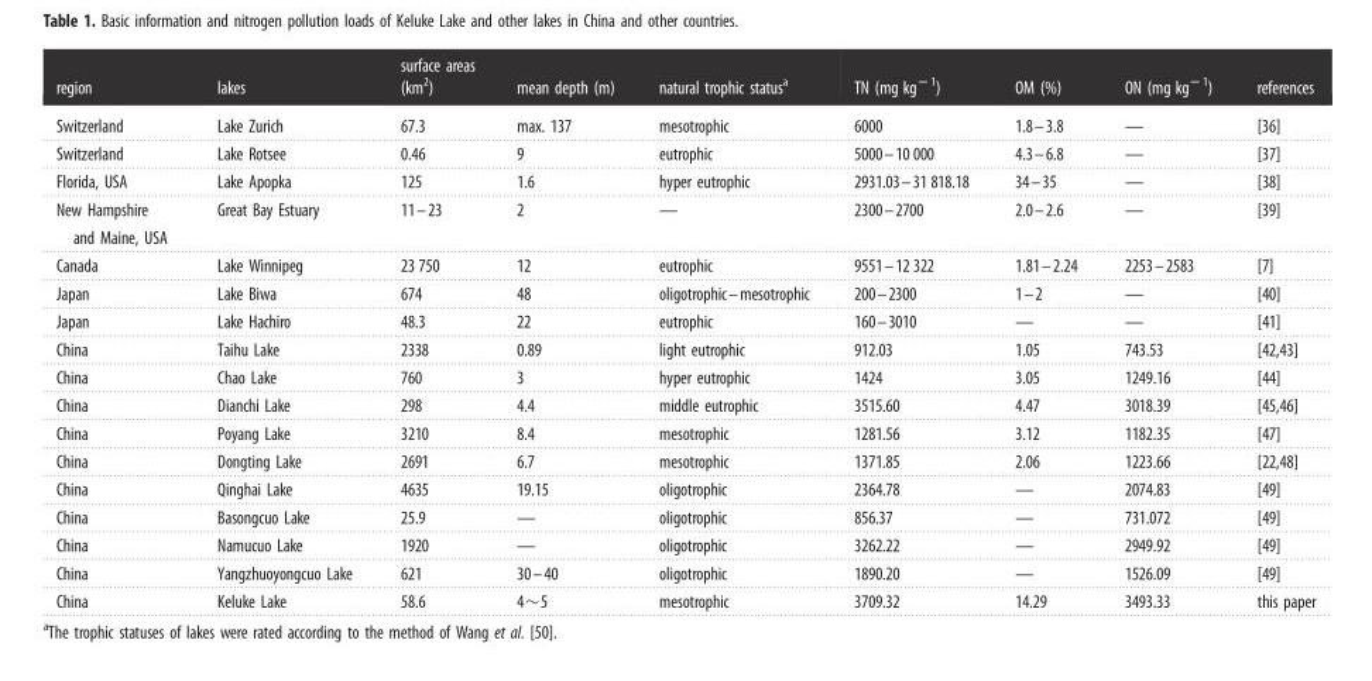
<table><thead><tr><td>region</td><td>lakes</td><td>surface areas (km<sup>2</sup>)</td><td>mean depth (m)</td><td>natural trophic status<sup>a</sup></td><td>TN (mg kg<sup>−1</sup>)</td><td>OM (%)</td><td>ON (mg kg<sup>−1</sup>)</td><td>references</td></tr></thead><tbody><tr><td>Switzerland</td><td>Lake Zurich</td><td>67.3</td><td>max. 137</td><td>mesotrophic</td><td>6000</td><td>1.8–3.8</td><td>—</td><td>[36]</td></tr><tr><td>Switzerland</td><td>Lake Rotsee</td><td>0.46</td><td>9</td><td>eutrophic</td><td>5000–10 000</td><td>4.3–6.8</td><td>—</td><td>[37]</td></tr><tr><td>Florida, USA</td><td>Lake Apopka</td><td>125</td><td>1.6</td><td>hyper eutrophic</td><td>2931.03–31 818.18</td><td>34–35</td><td>—</td><td>[38]</td></tr><tr><td>New Hampshire and Maine, USA</td><td>Great Bay Estuary</td><td>11–23</td><td>2</td><td>—</td><td>2300–2700</td><td>2.0–2.6</td><td>—</td><td>[39]</td></tr><tr><td>Canada</td><td>Lake Winnipeg</td><td>23 750</td><td>12</td><td>eutrophic</td><td>9551–12 322</td><td>1.81–2.24</td><td>2253–2583</td><td>[7]</td></tr><tr><td>Japan</td><td>Lake Biwa</td><td>674</td><td>48</td><td>oligotrophic–mesotrophic</td><td>200–2300</td><td>1–2</td><td>—</td><td>[40]</td></tr><tr><td>Japan</td><td>Lake Hachiro</td><td>48.3</td><td>22</td><td>eutrophic</td><td>160–3010</td><td>—</td><td>—</td><td>[41]</td></tr><tr><td>China</td><td>Taihu Lake</td><td>2338</td><td>0.89</td><td>light eutrophic</td><td>912.03</td><td>1.05</td><td>743.53</td><td>[42,43]</td></tr><tr><td>China</td><td>Chao Lake</td><td>760</td><td>3</td><td>hyper eutrophic</td><td>1424</td><td>3.05</td><td>1249.16</td><td>[44]</td></tr><tr><td>China</td><td>Dianchi Lake</td><td>298</td><td>4.4</td><td>middle eutrophic</td><td>3515.60</td><td>4.47</td><td>3018.39</td><td>[45,46]</td></tr><tr><td>China</td><td>Poyang Lake</td><td>3210</td><td>8.4</td><td>mesotrophic</td><td>1281.56</td><td>3.12</td><td>1182.35</td><td>[47]</td></tr><tr><td>China</td><td>Dongting Lake</td><td>2691</td><td>6.7</td><td>mesotrophic</td><td>1371.85</td><td>2.06</td><td>1223.66</td><td>[22,48]</td></tr><tr><td>China</td><td>Qinghai Lake</td><td>4635</td><td>19.15</td><td>oligotrophic</td><td>2364.78</td><td>—</td><td>2074.83</td><td>[49]</td></tr><tr><td>China</td><td>Basongcuo Lake</td><td>25.9</td><td>—</td><td>oligotrophic</td><td>856.37</td><td>—</td><td>731.072</td><td>[49]</td></tr><tr><td>China</td><td>Namucuo Lake</td><td>1920</td><td>—</td><td>oligotrophic</td><td>3262.22</td><td>—</td><td>2949.92</td><td>[49]</td></tr><tr><td>China</td><td>Yangzhuoyongcuo Lake</td><td>621</td><td>30–40</td><td>oligotrophic</td><td>1890.20</td><td>—</td><td>1526.09</td><td>[49]</td></tr><tr><td>China</td><td>Keluke Lake</td><td>58.6</td><td>4≏5</td><td>mesotrophic</td><td>3709.32</td><td>14.29</td><td>3493.33</td><td>this paper</td></tr></tbody></table>